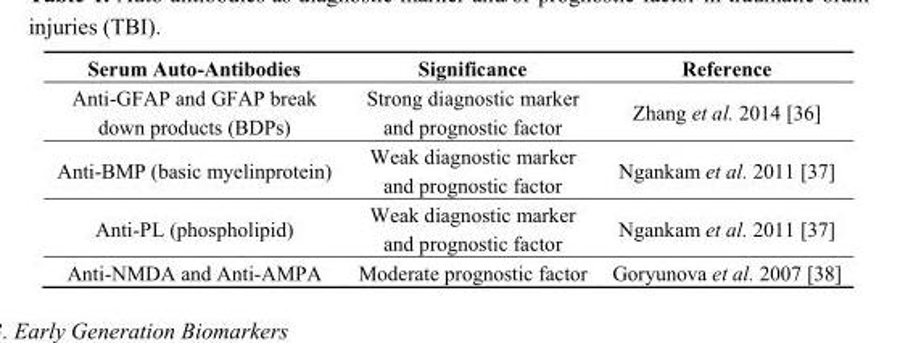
<table><thead><tr><td>Serum Auto-Antibodies</td><td>Significance</td><td>Reference</td></tr></thead><tbody><tr><td>Anti-GFAP and GFAP break down products (BDPs)</td><td>Strong diagnostic marker and prognostic factor</td><td>Zhang et al. 2014 [36]</td></tr><tr><td>Anti-BMP (basic myelinprotein)</td><td>Weak diagnostic marker and prognostic factor</td><td>Ngankam et al. 2011 [37]</td></tr><tr><td>Anti-PL (phospholipid)</td><td>Weak diagnostic marker and prognostic factor</td><td>Ngankam et al. 2011 [37]</td></tr><tr><td>Anti-NMDA and Anti-AMPA</td><td>Moderate prognostic factor</td><td>Goryunova et al. 2007 [38]</td></tr></tbody></table>